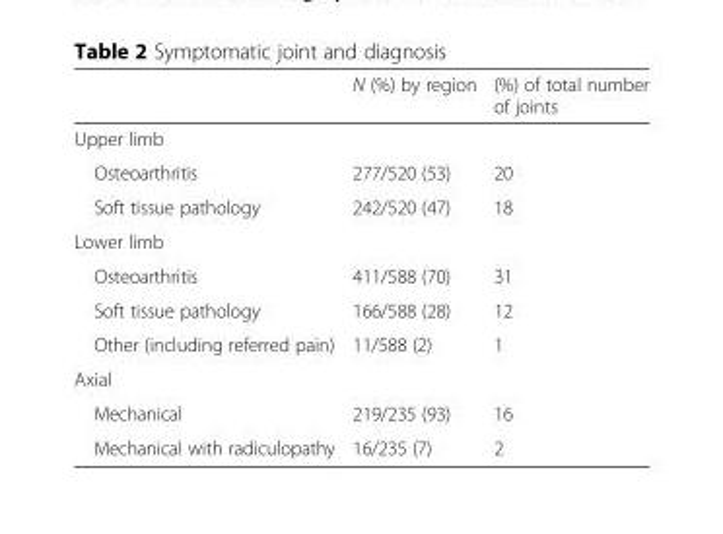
<table><thead><tr><td></td><td>N (%) by region</td><td>(%) of total number of joints</td></tr></thead><tbody><tr><td colspan="3">Upper limb</td></tr><tr><td>Osteoarthritis</td><td>277/520 (53)</td><td>20</td></tr><tr><td>Soft tissue pathology</td><td>242/520 (47)</td><td>18</td></tr><tr><td colspan="3">Lower limb</td></tr><tr><td>Osteoarthritis</td><td>411/588 (70)</td><td>31</td></tr><tr><td>Soft tissue pathology</td><td>166/588 (28)</td><td>12</td></tr><tr><td>Other (including referred pain)</td><td>11/588 (2)</td><td>1</td></tr><tr><td colspan="3">Axial</td></tr><tr><td>Mechanical</td><td>219/235 (93)</td><td>16</td></tr><tr><td>Mechanical with radiculopathy</td><td>16/235 (7)</td><td>2</td></tr></tbody></table>